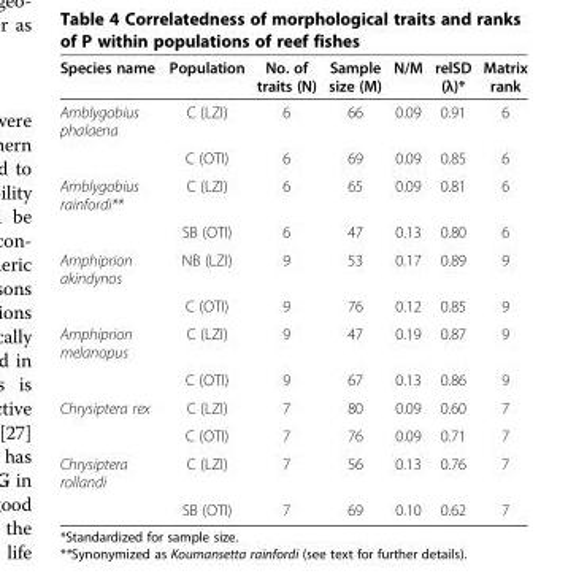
<table><thead><tr><td>Species name</td><td>Population</td><td>No. of traits (N)</td><td>Sample size (M)</td><td>N/M</td><td>relSD (λ)*</td><td>Matrix rank</td></tr></thead><tbody><tr><td rowspan="2">Amblygobius phalaena</td><td>C (LZI)</td><td>6</td><td>66</td><td>0.09</td><td>0.91</td><td>6</td></tr><tr><td>C (OTI)</td><td>6</td><td>69</td><td>0.09</td><td>0.85</td><td>6</td></tr><tr><td rowspan="2">Amblygobius rainfordi**</td><td>C (LZI)</td><td>6</td><td>65</td><td>0.09</td><td>0.81</td><td>6</td></tr><tr><td>SB (OTI)</td><td>6</td><td>47</td><td>0.13</td><td>0.80</td><td>6</td></tr><tr><td rowspan="2">Amphiprion akindynos</td><td>NB (LZI)</td><td>9</td><td>53</td><td>0.17</td><td>0.89</td><td>9</td></tr><tr><td>C (OTI)</td><td>9</td><td>76</td><td>0.12</td><td>0.85</td><td>9</td></tr><tr><td rowspan="2">Amphiprion melanopus</td><td>C (LZI)</td><td>9</td><td>47</td><td>0.19</td><td>0.87</td><td>9</td></tr><tr><td>C (OTI)</td><td>9</td><td>67</td><td>0.13</td><td>0.86</td><td>9</td></tr><tr><td rowspan="2">Chrysiptera rex</td><td>C (LZI)</td><td>7</td><td>80</td><td>0.09</td><td>0.60</td><td>7</td></tr><tr><td>C (OTI)</td><td>7</td><td>76</td><td>0.09</td><td>0.71</td><td>7</td></tr><tr><td rowspan="2">Chrysiptera rollandi</td><td>C (LZI)</td><td>7</td><td>56</td><td>0.13</td><td>0.76</td><td>7</td></tr><tr><td>SB (OTI)</td><td>7</td><td>69</td><td>0.10</td><td>0.62</td><td>7</td></tr></tbody></table>